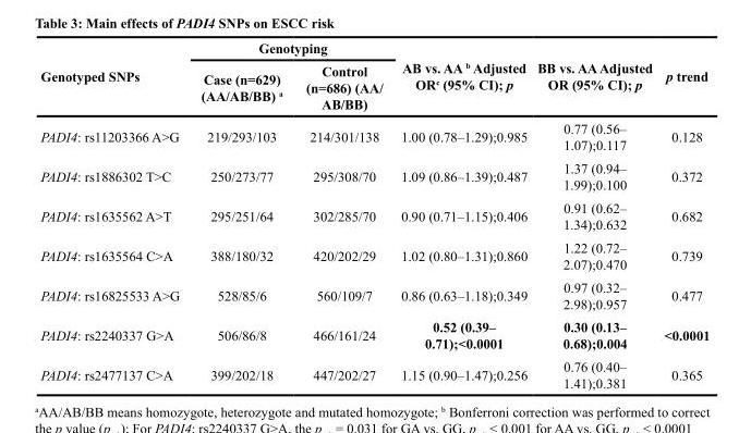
<table><thead><tr><td rowspan="2">Genotyped SNPs</td><td colspan="2">Genotyping</td><td rowspan="2">AB vs. AA <sup>b</sup> Adjusted OR<sup>c</sup> (95% CI); p</td><td rowspan="2">BB vs. AA Adjusted OR (95% CI); p</td><td rowspan="2">p trend</td></tr><tr><td>Case (n=629) (AA/AB/BB) <sup>a</sup></td><td>Control (n=686) (AA/ AB/BB)</td></tr></thead><tbody><tr><td>PADI4: rs11203366 A&gt;G</td><td>219/293/103</td><td>214/301/138</td><td>1.00 (0.78–1.29);0.985</td><td>0.77 (0.56– 1.07);0.117</td><td>0.128</td></tr><tr><td>PADI4: rs1886302 T&gt;C</td><td>250/273/77</td><td>295/308/70</td><td>1.09 (0.86–1.39);0.487</td><td>1.37 (0.94– 1.99);0.100</td><td>0.372</td></tr><tr><td>PADI4: rs1635562 A&gt;T</td><td>295/251/64</td><td>302/285/70</td><td>0.90 (0.71–1.15);0.406</td><td>0.91 (0.62– 1.34);0.632</td><td>0.682</td></tr><tr><td>PADI4: rs1635564 C&gt;A</td><td>388/180/32</td><td>420/202/29</td><td>1.02 (0.80–1.31);0.860</td><td>1.22 (0.72– 2.07);0.470</td><td>0.739</td></tr><tr><td>PADI4: rs16825533 A&gt;G</td><td>528/85/6</td><td>560/109/7</td><td>0.86 (0.63–1.18);0.349</td><td>0.97 (0.32– 2.98);0.957</td><td>0.477</td></tr><tr><td>PADI4: rs2240337 G&gt;A</td><td>506/86/8</td><td>466/161/24</td><td>0.52 (0.39– 0.71);&lt;0.0001</td><td>0.30 (0.13– 0.68);0.004</td><td>&lt;0.0001</td></tr><tr><td>PADI4: rs2477137 C&gt;A</td><td>399/202/18</td><td>447/202/27</td><td>1.15 (0.90–1.47);0.256</td><td>0.76 (0.40– 1.41);0.381</td><td>0.365</td></tr></tbody></table>